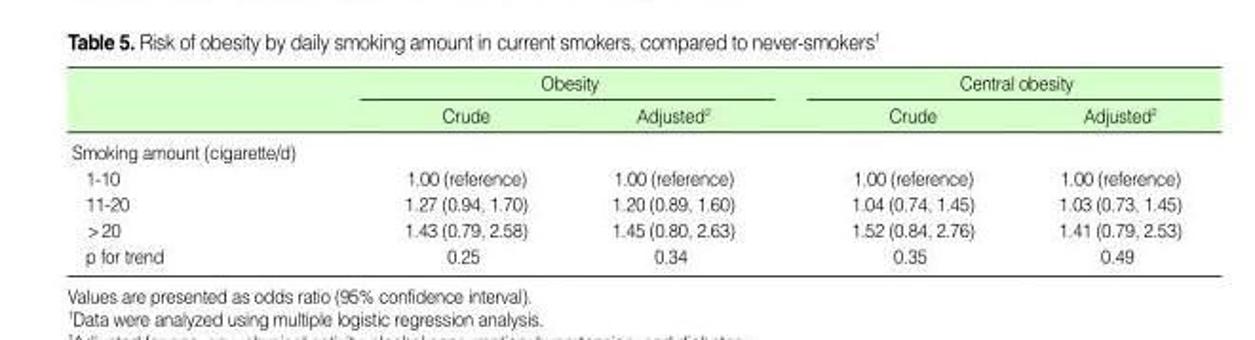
<table><thead><tr><td rowspan="2"></td><td colspan="2">Obesity</td><td colspan="2">Central obesity</td></tr><tr><td>Crude</td><td>Adjusted<sup>2</sup></td><td>Crude</td><td>Adjusted<sup>2</sup></td></tr></thead><tbody><tr><td colspan="5">Smoking amount (cigarette/d)</td></tr><tr><td>1-10</td><td>1.00 (reference)</td><td>1.00 (reference)</td><td>1.00 (reference)</td><td>1.00 (reference)</td></tr><tr><td>11-20</td><td>1.27 (0.94, 1.70)</td><td>1.20 (0.89, 1.60)</td><td>1.04 (0.74, 1.45)</td><td>1.03 (0.73, 1.45)</td></tr><tr><td>&gt;20</td><td>1.43 (0.79, 2.58)</td><td>1.45 (0.80, 2.63)</td><td>1.52 (0.84, 2.76)</td><td>1.41 (0.79, 2.53)</td></tr><tr><td>p for trend</td><td>0.25</td><td>0.34</td><td>0.35</td><td>0.49</td></tr></tbody></table>